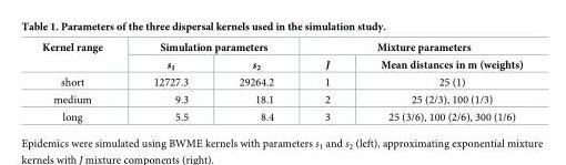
<table><thead><tr><td rowspan="2">Kernel range</td><td colspan="2">Simulation parameters</td><td colspan="2">Mixture parameters</td></tr><tr><td>s<sub>1</sub></td><td>s<sub>2</sub></td><td>J</td><td>Mean distances in m (weights)</td></tr></thead><tbody><tr><td>short</td><td>12727.3</td><td>29264.2</td><td>1</td><td>25 (1)</td></tr><tr><td>medium</td><td>9.3</td><td>18.1</td><td>2</td><td>25 (2/3), 100 (1/3)</td></tr><tr><td>long</td><td>5.5</td><td>8.4</td><td>3</td><td>25 (3/6), 100 (2/6), 300 (1/6)</td></tr></tbody></table>